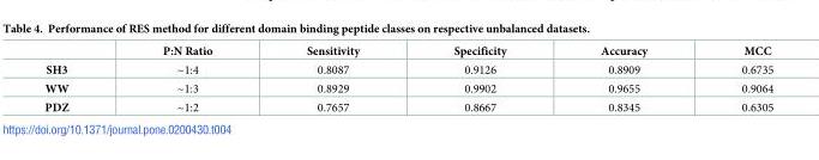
<table><thead><tr><td></td><td>P:N Ratio</td><td>Sensitivity</td><td>Specificity</td><td>Accuracy</td><td>MCC</td></tr></thead><tbody><tr><td>SH3</td><td>~1:4</td><td>0.8087</td><td>0.9126</td><td>0.8909</td><td>0.6735</td></tr><tr><td>WW</td><td>~1:3</td><td>0.8929</td><td>0.9902</td><td>0.9655</td><td>0.9064</td></tr><tr><td>PDZ</td><td>~1:2</td><td>0.7657</td><td>0.8667</td><td>0.8345</td><td>0.6305</td></tr></tbody></table>